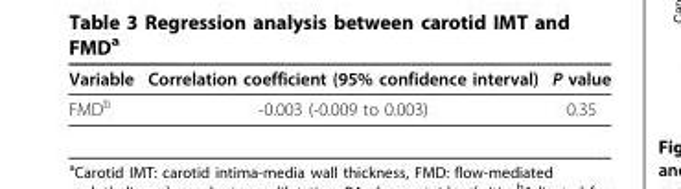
<table><thead><tr><td>Variable</td><td>Correlation coefficient (95% confidence interval)</td><td>P value</td></tr></thead><tbody><tr><td>FMD<sup>b</sup></td><td>-0.003 (-0.009 to 0.003)</td><td>0.35</td></tr></tbody></table>